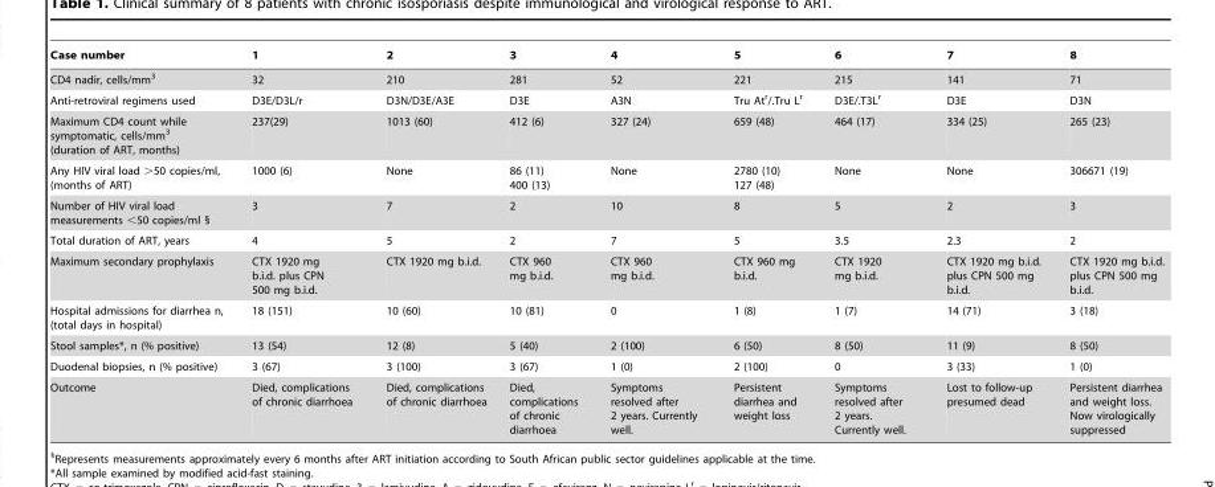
<table><thead><tr><td>Case number</td><td>1</td><td>2</td><td>3</td><td>4</td><td>5</td><td>6</td><td>7</td><td>8</td></tr></thead><tbody><tr><td>CD4 nadir, cells/mm<sup>3</sup></td><td>32</td><td>210</td><td>281</td><td>52</td><td>221</td><td>215</td><td>141</td><td>71</td></tr><tr><td>Anti-retroviral regimens used</td><td>D3E/D3L/r</td><td>D3N/D3E/A3E</td><td>D3E</td><td>A3N</td><td>Tru At<sup>r</sup>/.Tru L<sup>r</sup></td><td>D3E/.T3L<sup>r</sup></td><td>D3E</td><td>D3N</td></tr><tr><td>Maximum CD4 count while symptomatic, cells/mm<sup>3</sup> (duration of ART, months)</td><td>237(29)</td><td>1013 (60)</td><td>412 (6)</td><td>327 (24)</td><td>659 (48)</td><td>464 (17)</td><td>334 (25)</td><td>265 (23)</td></tr><tr><td>Any HIV viral load &gt;50 copies/ml, (months of ART)</td><td>1000 (6)</td><td>None</td><td>86 (11) 400 (13)</td><td>None</td><td>2780 (10) 127 (48)</td><td>None</td><td>None</td><td>306671 (19)</td></tr><tr><td>Number of HIV viral load measurements &lt;50 copies/ml §</td><td>3</td><td>7</td><td>2</td><td>10</td><td>8</td><td>5</td><td>2</td><td>3</td></tr><tr><td>Total duration of ART, years</td><td>4</td><td>5</td><td>2</td><td>7</td><td>5</td><td>3.5</td><td>2.3</td><td>2</td></tr><tr><td>Maximum secondary prophylaxis</td><td>CTX 1920 mg b.i.d. plus CPN 500 mg b.i.d.</td><td>CTX 1920 mg b.i.d.</td><td>CTX 960 mg b.i.d.</td><td>CTX 960 mg b.i.d.</td><td>CTX 960 mg b.i.d.</td><td>CTX 1920 mg b.i.d.</td><td>CTX 1920 mg b.i.d. plus CPN 500 mg b.i.d.</td><td>CTX 1920 mg b.i.d. plus CPN 500 mg b.i.d.</td></tr><tr><td>Hospital admissions for diarrhea n, (total days in hospital)</td><td>18 (151)</td><td>10 (60)</td><td>10 (81)</td><td>0</td><td>1 (8)</td><td>1 (7)</td><td>14 (71)</td><td>3 (18)</td></tr><tr><td>Stool samples*, n (% positive)</td><td>13 (54)</td><td>12 (8)</td><td>5 (40)</td><td>2 (100)</td><td>6 (50)</td><td>8 (50)</td><td>11 (9)</td><td>8 (50)</td></tr><tr><td>Duodenal biopsies, n (% positive)</td><td>3 (67)</td><td>3 (100)</td><td>3 (67)</td><td>1 (0)</td><td>2 (100)</td><td>0</td><td>3 (33)</td><td>1 (0)</td></tr><tr><td>Outcome</td><td>Died, complications of chronic diarrhoea</td><td>Died, complications of chronic diarrhoea</td><td>Died, complications of chronic diarrhoea</td><td>Symptoms resolved after 2 years. Currently well.</td><td>Persistent diarrhea and weight loss</td><td>Symptoms resolved after 2 years. Currently well.</td><td>Lost to follow-up presumed dead</td><td>Persistent diarrhea and weight loss. Now virologically suppressed</td></tr></tbody></table>